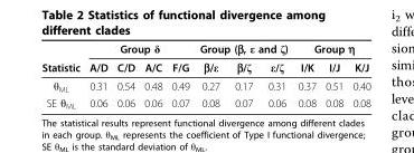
<table><thead><tr><td rowspan="2">Statistic</td><td rowspan="2">A/D</td><td colspan="2">Group δ</td><td rowspan="2">F/G</td><td colspan="3">Group (β, ε and ζ)</td><td colspan="3">Group η</td></tr><tr><td>C/D</td><td>A/C</td><td>β/ε</td><td>β/ζ</td><td>ε/ζ</td><td>I/K</td><td>I/J</td><td>K/J</td></tr></thead><tbody><tr><td>θ<sub>ML</sub></td><td>0.31</td><td>0.54</td><td>0.48</td><td>0.49</td><td>0.27</td><td>0.17</td><td>0.31</td><td>0.37</td><td>0.51</td><td>0.40</td></tr><tr><td>SE θ<sub>ML</sub></td><td>0.06</td><td>0.06</td><td>0.06</td><td>0.07</td><td>0.08</td><td>0.07</td><td>0.06</td><td>0.08</td><td>0.08</td><td>0.08</td></tr></tbody></table>